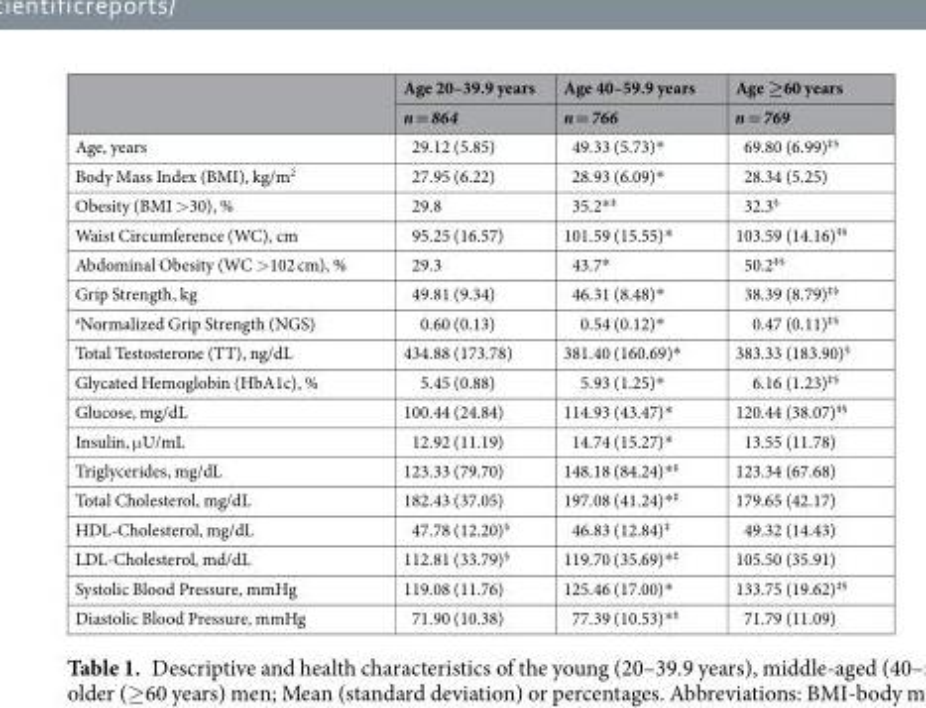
<table><thead><tr><td rowspan="2"></td><td rowspan="2">Age 20–39.9 years n = 864</td><td rowspan="2">Age 40–59.9 years n = 766</td><td rowspan="2">Age ≥60 years n = 769</td></tr><tr></tr></thead><tbody><tr><td>Age, years</td><td>29.12 (5.85)</td><td>49.33 (5.73)*</td><td>69.80 (6.99)<sup>‡§</sup></td></tr><tr><td>Body Mass Index (BMI), kg/m<sup>2</sup></td><td>27.95 (6.22)</td><td>28.93 (6.09)*</td><td>28.34 (5.25)</td></tr><tr><td>Obesity (BMI &gt;30), %</td><td>29.8</td><td>35.2*<sup>‡</sup></td><td>32.3<sup>§</sup></td></tr><tr><td>Waist Circumference (WC), cm</td><td>95.25 (16.57)</td><td>101.59 (15.55)*</td><td>103.59 (14.16)<sup>‡§</sup></td></tr><tr><td>Abdominal Obesity (WC &gt;102 cm), %</td><td>29.3</td><td>43.7*</td><td>50.2<sup>‡§</sup></td></tr><tr><td>Grip Strength, kg</td><td>49.81 (9.34)</td><td>46.31 (8.48)*</td><td>38.39 (8.79)<sup>‡§</sup></td></tr><tr><td><sup>a</sup>Normalized Grip Strength (NGS)</td><td>0.60 (0.13)</td><td>0.54 (0.12)*</td><td>0.47 (0.11)<sup>‡§</sup></td></tr><tr><td>Total Testosterone (TT), ng/dL</td><td>434.88 (173.78)</td><td>381.40 (160.69)*</td><td>383.33 (183.90)<sup>§</sup></td></tr><tr><td>Glycated Hemoglobin (HbA1c), %</td><td>5.45 (0.88)</td><td>5.93 (1.25)*</td><td>6.16 (1.23)<sup>‡§</sup></td></tr><tr><td>Glucose, mg/dL</td><td>100.44 (24.84)</td><td>114.93 (43.47)*</td><td>120.44 (38.07)<sup>‡§</sup></td></tr><tr><td>Insulin, μU/mL</td><td>12.92 (11.19)</td><td>14.74 (15.27)*</td><td>13.55 (11.78)</td></tr><tr><td>Triglycerides, mg/dL</td><td>123.33 (79.70)</td><td>148.18 (84.24)*<sup>‡</sup></td><td>123.34 (67.68)</td></tr><tr><td>Total Cholesterol, mg/dL</td><td>182.43 (37.05)</td><td>197.08 (41.24)*<sup>‡</sup></td><td>179.65 (42.17)</td></tr><tr><td>HDL-Cholesterol, mg/dL</td><td>47.78 (12.20)<sup>§</sup></td><td>46.83 (12.84)<sup>‡</sup></td><td>49.32 (14.43)</td></tr><tr><td>LDL-Cholesterol, md/dL</td><td>112.81 (33.79)<sup>§</sup></td><td>119.70 (35.69)*<sup>‡</sup></td><td>105.50 (35.91)</td></tr><tr><td>Systolic Blood Pressure, mmHg</td><td>119.08 (11.76)</td><td>125.46 (17.00)*</td><td>133.75 (19.62)<sup>‡§</sup></td></tr><tr><td>Diastolic Blood Pressure, mmHg</td><td>71.90 (10.38)</td><td>77.39 (10.53)*<sup>‡</sup></td><td>71.79 (11.09)</td></tr></tbody></table>